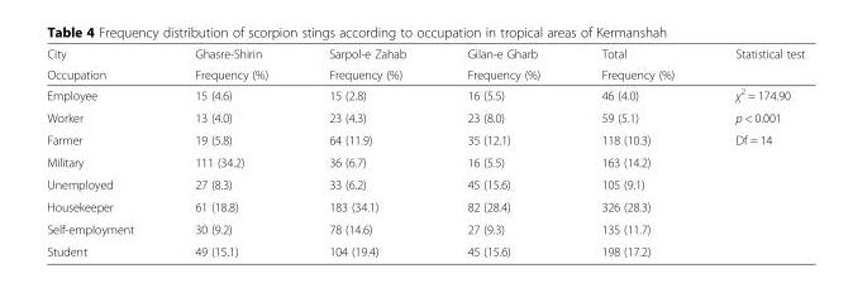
<table><thead><tr><td rowspan="2">City Occupation</td><td rowspan="2">Ghasre-Shirin Frequency (%)</td><td rowspan="2">Sarpol-e Zahab Frequency (%)</td><td rowspan="2">Gilan-e Gharb Frequency (%)</td><td rowspan="2">Total Frequency (%)</td><td rowspan="2">Statistical test</td></tr><tr></tr></thead><tbody><tr><td>Employee</td><td>15 (4.6)</td><td>15 (2.8)</td><td>16 (5.5)</td><td>46 (4.0)</td><td>χ<sup>2</sup> = 174.90</td></tr><tr><td>Worker</td><td>13 (4.0)</td><td>23 (4.3)</td><td>23 (8.0)</td><td>59 (5.1)</td><td>p &lt; 0.001</td></tr><tr><td>Farmer</td><td>19 (5.8)</td><td>64 (11.9)</td><td>35 (12.1)</td><td>118 (10.3)</td><td rowspan="6">Df = 14</td></tr><tr><td>Military</td><td>111 (34.2)</td><td>36 (6.7)</td><td>16 (5.5)</td><td>163 (14.2)</td></tr><tr><td>Unemployed</td><td>27 (8.3)</td><td>33 (6.2)</td><td>45 (15.6)</td><td>105 (9.1)</td></tr><tr><td>Housekeeper</td><td>61 (18.8)</td><td>183 (34.1)</td><td>82 (28.4)</td><td>326 (28.3)</td></tr><tr><td>Self-employment</td><td>30 (9.2)</td><td>78 (14.6)</td><td>27 (9.3)</td><td>135 (11.7)</td></tr><tr><td>Student</td><td>49 (15.1)</td><td>104 (19.4)</td><td>45 (15.6)</td><td>198 (17.2)</td></tr></tbody></table>